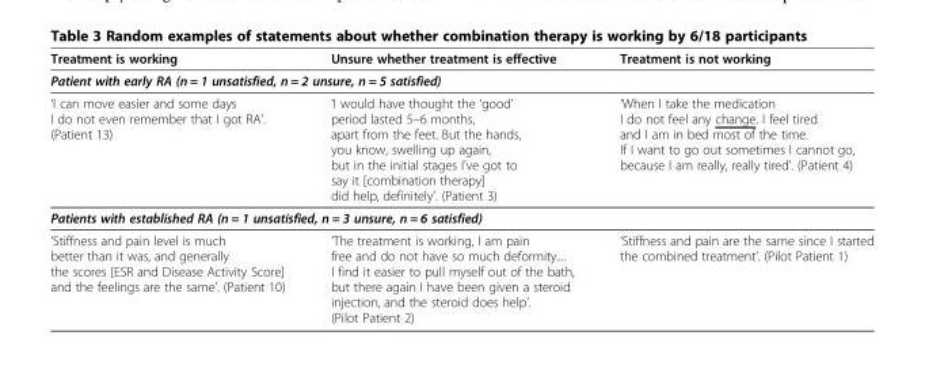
<table><thead><tr><td>Treatment is working</td><td>Unsure whether treatment is effective</td><td>Treatment is not working</td></tr></thead><tbody><tr><td colspan="3">Patient with early RA (n = 1 unsatisfied, n = 2 unsure, n = 5 satisfied)</td></tr><tr><td>‘I can move easier and some days I do not even remember that I got RA’. (Patient 13)</td><td>‘I would have thought the ‘good’ period lasted 5–6 months, apart from the feet. But the hands, you know, swelling up again, but in the initial stages I’ve got to say it [combination therapy] did help, definitely’. (Patient 3)</td><td>‘When I take the medication I do not feel any change. I feel tired and I am in bed most of the time. If I want to go out sometimes I cannot go, because I am really, really tired’. (Patient 4)</td></tr><tr><td colspan="3">Patients with established RA (n = 1 unsatisfied, n = 3 unsure, n = 6 satisfied)</td></tr><tr><td>‘Stiffness and pain level is much better than it was, and generally the scores [ESR and Disease Activity Score] and the feelings are the same’. (Patient 10)</td><td>‘The treatment is working, I am pain free and do not have so much deformity.... I find it easier to pull myself out of the bath, but there again I have been given a steroid injection, and the steroid does help’. (Pilot Patient 2)</td><td>‘Stiffness and pain are the same since I started the combined treatment’. (Pilot Patient 1)</td></tr></tbody></table>